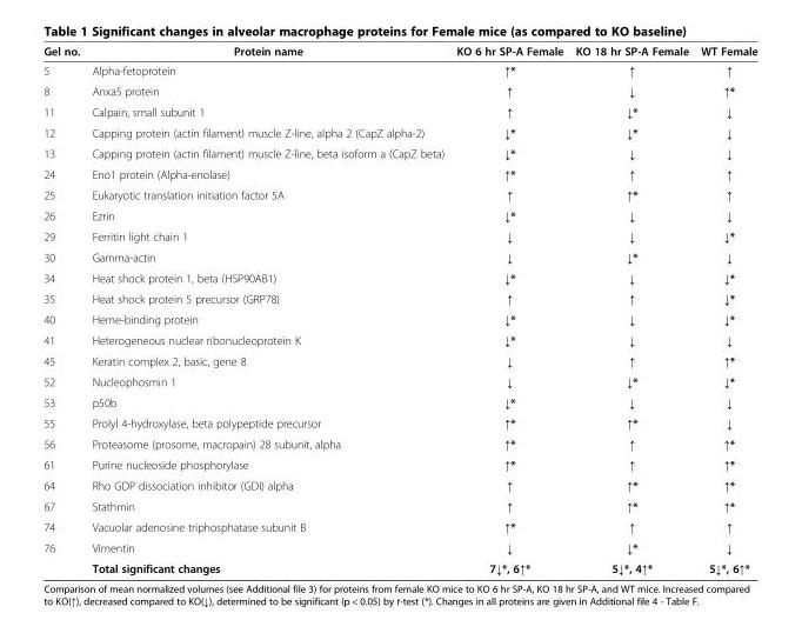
<table><thead><tr><td>Gel no.</td><td>Protein name</td><td>KO 6 hr SP-A Female</td><td>KO 18 hr SP-A Female</td><td>WT Female</td></tr></thead><tbody><tr><td>5</td><td>Alpha-fetoprotein</td><td>↑*</td><td>↑</td><td>↑</td></tr><tr><td>8</td><td>Anxa5 protein</td><td>↑</td><td>↓</td><td>↑*</td></tr><tr><td>11</td><td>Calpain, small subunit 1</td><td>↑</td><td>↓*</td><td>↓</td></tr><tr><td>12</td><td>Capping protein (actin filament) muscle Z-line, alpha 2 (CapZ alpha-2)</td><td>↓*</td><td>↓*</td><td>↓</td></tr><tr><td>13</td><td>Capping protein (actin filament) muscle Z-line, beta isoform a (CapZ beta)</td><td>↓*</td><td>↓</td><td>↓</td></tr><tr><td>24</td><td>Eno1 protein (Alpha-enolase)</td><td>↑*</td><td>↑</td><td>↑</td></tr><tr><td>25</td><td>Eukaryotic translation initiation factor 5A</td><td>↑</td><td>↑*</td><td>↑</td></tr><tr><td>26</td><td>Ezrin</td><td>↓*</td><td>↓</td><td>↓</td></tr><tr><td>29</td><td>Ferritin light chain 1</td><td>↓</td><td>↓</td><td>↓*</td></tr><tr><td>30</td><td>Gamma-actin</td><td>↓</td><td>↓*</td><td>↓</td></tr><tr><td>34</td><td>Heat shock protein 1, beta (HSP90AB1)</td><td>↓*</td><td>↓</td><td>↓*</td></tr><tr><td>35</td><td>Heat shock protein 5 precursor (GRP78)</td><td>↑</td><td>↑</td><td>↓*</td></tr><tr><td>40</td><td>Heme-binding protein</td><td>↓*</td><td>↓</td><td>↓*</td></tr><tr><td>41</td><td>Heterogeneous nuclear ribonucleoprotein K</td><td>↓*</td><td>↓</td><td>↓</td></tr><tr><td>45</td><td>Keratin complex 2, basic, gene 8</td><td>↓</td><td>↑</td><td>↑*</td></tr><tr><td>52</td><td>Nucleophosmin 1</td><td>↓</td><td>↓*</td><td>↓*</td></tr><tr><td>53</td><td>p50b</td><td>↓*</td><td>↓</td><td>↓</td></tr><tr><td>55</td><td>Prolyl 4-hydroxylase, beta polypeptide precursor</td><td>↑*</td><td>↑*</td><td>↓</td></tr><tr><td>56</td><td>Proteasome (prosome, macropain) 28 subunit, alpha</td><td>↑*</td><td>↑</td><td>↑*</td></tr><tr><td>61</td><td>Purine nucleoside phosphorylase</td><td>↑*</td><td>↑</td><td>↑*</td></tr><tr><td>64</td><td>Rho GDP dissociation inhibitor (GDI) alpha</td><td>↑</td><td>↑*</td><td>↑*</td></tr><tr><td>67</td><td>Stathmin</td><td>↑</td><td>↑*</td><td>↑*</td></tr><tr><td>74</td><td>Vacuolar adenosine triphosphatase subunit B</td><td>↑*</td><td>↑</td><td>↑</td></tr><tr><td rowspan="2">76</td><td>Vimentin</td><td>↓</td><td>↓*</td><td>↓</td></tr><tr><td>Total significant changes</td><td>7↓*, 6↑*</td><td>5↓*, 4↑*</td><td>5↓*, 6↑*</td></tr></tbody></table>